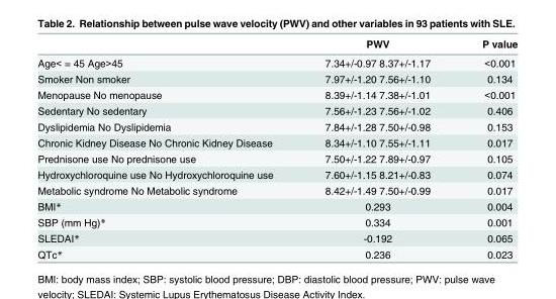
<table><thead><tr><td></td><td>PWV</td><td>P value</td></tr></thead><tbody><tr><td>Age&lt; = 45 Age&gt;45</td><td>7.34+/-0.97 8.37+/-1.17</td><td>&lt;0.001</td></tr><tr><td>Smoker Non smoker</td><td>7.97+/-1.20 7.56+/-1.10</td><td>0.134</td></tr><tr><td>Menopause No menopause</td><td>8.39+/-1.14 7.38+/-1.01</td><td>&lt;0.001</td></tr><tr><td>Sedentary No sedentary</td><td>7.56+/-1.23 7.56+/-1.02</td><td>0.406</td></tr><tr><td>Dyslipidemia No Dyslipidemia</td><td>7.84+/-1.28 7.50+/-0.98</td><td>0.153</td></tr><tr><td>Chronic Kidney Disease No Chronic Kidney Disease</td><td>8.34+/-1.10 7.55+/-1.11</td><td>0.017</td></tr><tr><td>Prednisone use No prednisone use</td><td>7.50+/-1.22 7.89+/-0.97</td><td>0.105</td></tr><tr><td>Hydroxychloroquine use No Hydroxychloroquine use</td><td>7.60+/-1.15 8.21+/-0.83</td><td>0.074</td></tr><tr><td>Metabolic syndrome No Metabolic syndrome</td><td>8.42+/-1.49 7.50+/-0.99</td><td>0.017</td></tr><tr><td>BMI*</td><td>0.293</td><td>0.004</td></tr><tr><td>SBP (mm Hg)*</td><td>0.334</td><td>0.001</td></tr><tr><td>SLEDAI*</td><td>-0.192</td><td>0.065</td></tr><tr><td>QTc*</td><td>0.236</td><td>0.023</td></tr></tbody></table>